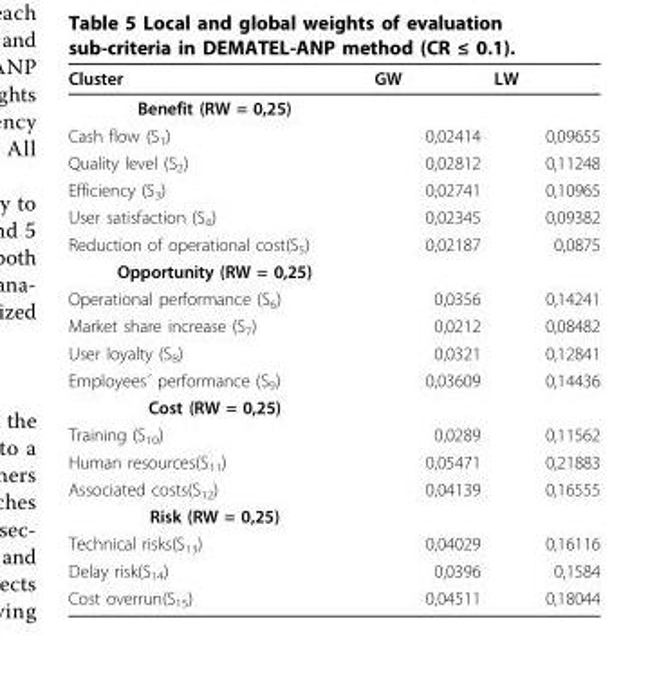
<table><thead><tr><td>Cluster</td><td>GW</td><td>LW</td></tr></thead><tbody><tr><td colspan="3">Benefit (RW = 0,25)</td></tr><tr><td>Cash flow (S<sub>1</sub>)</td><td>0,02414</td><td>0,09655</td></tr><tr><td>Quality level (S<sub>2</sub>)</td><td>0,02812</td><td>0,11248</td></tr><tr><td>Efficiency (S<sub>3</sub>)</td><td>0,02741</td><td>0,10965</td></tr><tr><td>User satisfaction (S<sub>4</sub>)</td><td>0,02345</td><td>0,09382</td></tr><tr><td>Reduction of operational cost(S<sub>5</sub>)</td><td>0,02187</td><td>0,0875</td></tr><tr><td colspan="3">Opportunity (RW = 0,25)</td></tr><tr><td>Operational performance (S<sub>6</sub>)</td><td>0,0356</td><td>0,14241</td></tr><tr><td>Market share increase (S<sub>7</sub>)</td><td>0,0212</td><td>0,08482</td></tr><tr><td>User loyalty (S<sub>8</sub>)</td><td>0,0321</td><td>0,12841</td></tr><tr><td>Employees´ performance (S<sub>9</sub>)</td><td>0,03609</td><td>0,14436</td></tr><tr><td colspan="3">Cost (RW = 0,25)</td></tr><tr><td>Training (S<sub>10</sub>)</td><td>0,0289</td><td>0,11562</td></tr><tr><td>Human resources(S<sub>11</sub>)</td><td>0,05471</td><td>0,21883</td></tr><tr><td>Associated costs(S<sub>12</sub>)</td><td>0,04139</td><td>0,16555</td></tr><tr><td colspan="3">Risk (RW = 0,25)</td></tr><tr><td>Technical risks(S<sub>13</sub>)</td><td>0,04029</td><td>0,16116</td></tr><tr><td>Delay risk(S<sub>14</sub>)</td><td>0,0396</td><td>0,1584</td></tr><tr><td>Cost overrun(S<sub>15</sub>)</td><td>0,04511</td><td>0,18044</td></tr></tbody></table>